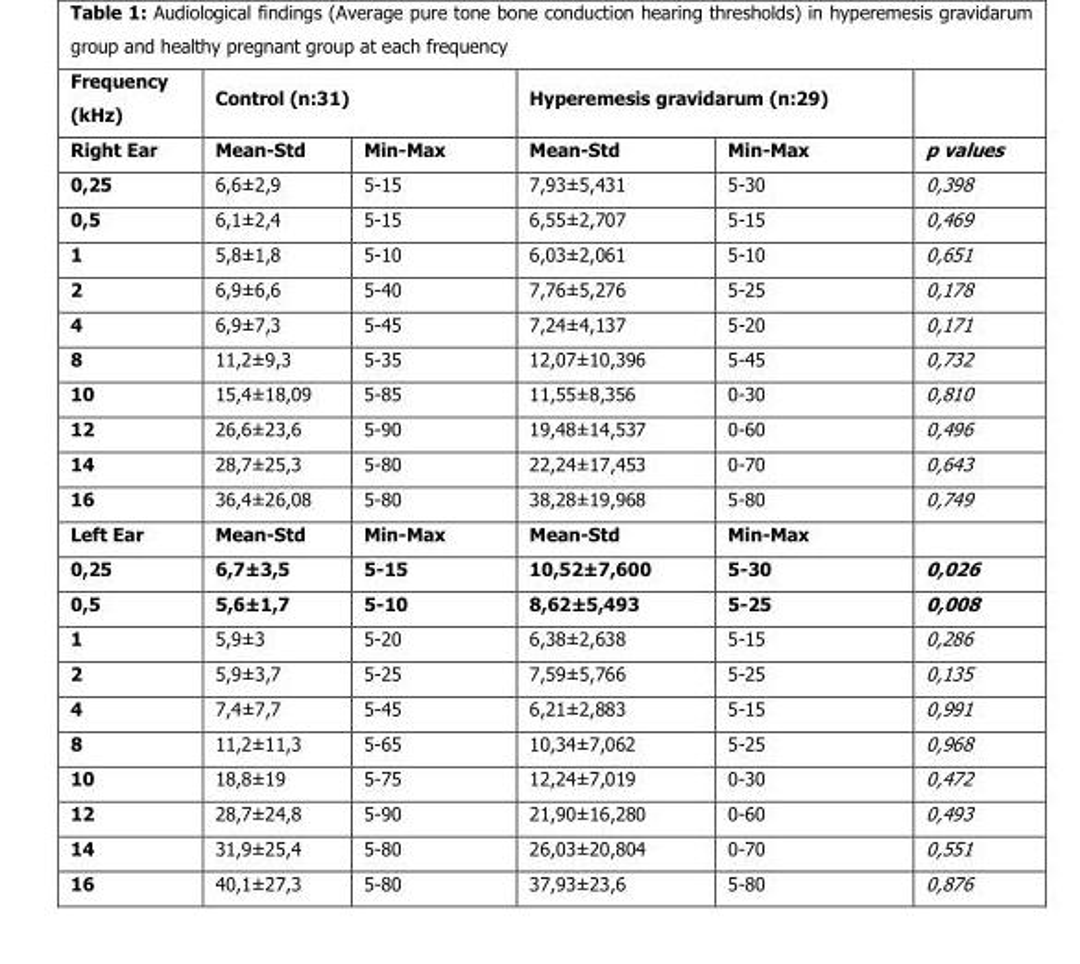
<table><thead><tr><td rowspan="2">Frequency (kHz) Right Ear</td><td colspan="2">Control (n:31)</td><td colspan="2">Hyperemesis gravidarum (n:29)</td><td rowspan="2">p values</td></tr><tr><td>Mean-Std</td><td>Min-Max</td><td>Mean-Std</td><td>Min-Max</td></tr></thead><tbody><tr><td>0,25</td><td>6,6±2,9</td><td>5-15</td><td>7,93±5,431</td><td>5-30</td><td>0,398</td></tr><tr><td>0,5</td><td>6,1±2,4</td><td>5-15</td><td>6,55±2,707</td><td>5-15</td><td>0,469</td></tr><tr><td>1</td><td>5,8±1,8</td><td>5-10</td><td>6,03±2,061</td><td>5-10</td><td>0,651</td></tr><tr><td>2</td><td>6,9±6,6</td><td>5-40</td><td>7,76±5,276</td><td>5-25</td><td>0,178</td></tr><tr><td>4</td><td>6,9±7,3</td><td>5-45</td><td>7,24±4,137</td><td>5-20</td><td>0,171</td></tr><tr><td>8</td><td>11,2±9,3</td><td>5-35</td><td>12,07±10,396</td><td>5-45</td><td>0,732</td></tr><tr><td>10</td><td>15,4±18,09</td><td>5-85</td><td>11,55±8,356</td><td>0-30</td><td>0,810</td></tr><tr><td>12</td><td>26,6±23,6</td><td>5-90</td><td>19,48±14,537</td><td>0-60</td><td>0,496</td></tr><tr><td>14</td><td>28,7±25,3</td><td>5-80</td><td>22,24±17,453</td><td>0-70</td><td>0,643</td></tr><tr><td>16</td><td>36,4±26,08</td><td>5-80</td><td>38,28±19,968</td><td>5-80</td><td>0,749</td></tr><tr><td>Left Ear</td><td>Mean-Std</td><td>Min-Max</td><td>Mean-Std</td><td>Min-Max</td><td></td></tr><tr><td>0,25</td><td>6,7±3,5</td><td>5-15</td><td>10,52±7,600</td><td>5-30</td><td>0,026</td></tr><tr><td>0,5</td><td>5,6±1,7</td><td>5-10</td><td>8,62±5,493</td><td>5-25</td><td>0,008</td></tr><tr><td>1</td><td>5,9±3</td><td>5-20</td><td>6,38±2,638</td><td>5-15</td><td>0,286</td></tr><tr><td>2</td><td>5,9±3,7</td><td>5-25</td><td>7,59±5,766</td><td>5-25</td><td>0,135</td></tr><tr><td>4</td><td>7,4±7,7</td><td>5-45</td><td>6,21±2,883</td><td>5-15</td><td>0,991</td></tr><tr><td>8</td><td>11,2±11,3</td><td>5-65</td><td>10,34±7,062</td><td>5-25</td><td>0,968</td></tr><tr><td>10</td><td>18,8±19</td><td>5-75</td><td>12,24±7,019</td><td>0-30</td><td>0,472</td></tr><tr><td>12</td><td>28,7±24,8</td><td>5-90</td><td>21,90±16,280</td><td>0-60</td><td>0,493</td></tr><tr><td>14</td><td>31,9±25,4</td><td>5-80</td><td>26,03±20,804</td><td>0-70</td><td>0,551</td></tr><tr><td>16</td><td>40,1±27,3</td><td>5-80</td><td>37,93±23,6</td><td>5-80</td><td>0,876</td></tr></tbody></table>